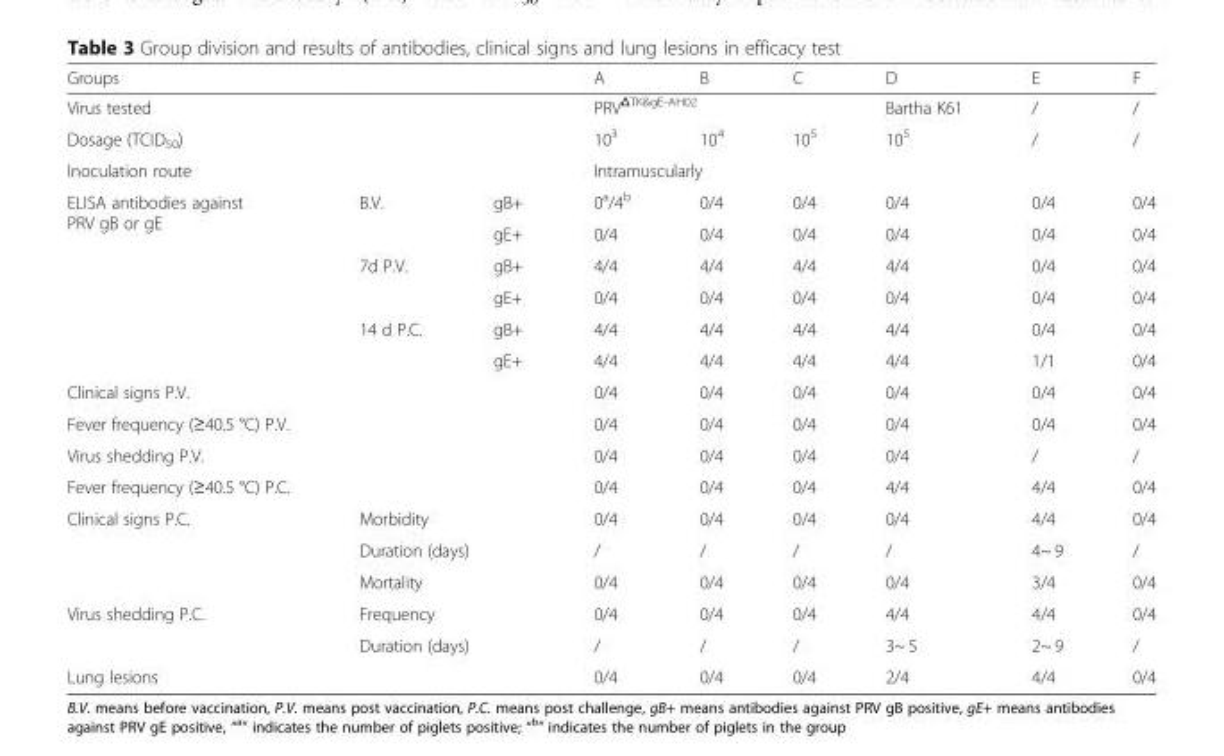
<table><thead><tr><td>Groups</td><td></td><td></td><td>A</td><td>B</td><td>C</td><td>D</td><td>E</td><td>F</td></tr></thead><tbody><tr><td>Virus tested</td><td></td><td></td><td colspan="3">PRV<sup>ΔTK&amp;gE-AH02</sup></td><td>Bartha K61</td><td>/</td><td>/</td></tr><tr><td>Dosage (TCID<sub>50</sub>)</td><td></td><td></td><td>10<sup>3</sup></td><td>10<sup>4</sup></td><td>10<sup>5</sup></td><td>10<sup>5</sup></td><td>/</td><td>/</td></tr><tr><td>Inoculation route</td><td></td><td></td><td colspan="6">Intramuscularly</td></tr><tr><td rowspan="6">ELISA antibodies against PRV gB or gE</td><td rowspan="2">B.V.</td><td>gB+</td><td>0<sup>a</sup>/4<sup>b</sup></td><td>0/4</td><td>0/4</td><td>0/4</td><td>0/4</td><td>0/4</td></tr><tr><td>gE+</td><td>0/4</td><td>0/4</td><td>0/4</td><td>0/4</td><td>0/4</td><td>0/4</td></tr><tr><td rowspan="2">7d P.V.</td><td>gB+</td><td>4/4</td><td>4/4</td><td>4/4</td><td>4/4</td><td>0/4</td><td>0/4</td></tr><tr><td>gE+</td><td>0/4</td><td>0/4</td><td>0/4</td><td>0/4</td><td>0/4</td><td>0/4</td></tr><tr><td rowspan="2">14 d P.C.</td><td>gB+</td><td>4/4</td><td>4/4</td><td>4/4</td><td>4/4</td><td>0/4</td><td>0/4</td></tr><tr><td>gE+</td><td>4/4</td><td>4/4</td><td>4/4</td><td>4/4</td><td>1/1</td><td>0/4</td></tr><tr><td>Clinical signs P.V.</td><td colspan="2"></td><td>0/4</td><td>0/4</td><td>0/4</td><td>0/4</td><td>0/4</td><td>0/4</td></tr><tr><td>Fever frequency (≥40.5 °C) P.V.</td><td colspan="2"></td><td>0/4</td><td>0/4</td><td>0/4</td><td>0/4</td><td>0/4</td><td>0/4</td></tr><tr><td>Virus shedding P.V.</td><td colspan="2"></td><td>0/4</td><td>0/4</td><td>0/4</td><td>0/4</td><td>/</td><td>/</td></tr><tr><td>Fever frequency (≥40.5 °C) P.C.</td><td colspan="2"></td><td>0/4</td><td>0/4</td><td>0/4</td><td>4/4</td><td>4/4</td><td>0/4</td></tr><tr><td rowspan="3">Clinical signs P.C.</td><td colspan="2">Morbidity</td><td>0/4</td><td>0/4</td><td>0/4</td><td>0/4</td><td>4/4</td><td>0/4</td></tr><tr><td colspan="2">Duration (days)</td><td>/</td><td>/</td><td>/</td><td>/</td><td>4~ 9</td><td>/</td></tr><tr><td colspan="2">Mortality</td><td>0/4</td><td>0/4</td><td>0/4</td><td>0/4</td><td>3/4</td><td>0/4</td></tr><tr><td rowspan="2">Virus shedding P.C.</td><td colspan="2">Frequency</td><td>0/4</td><td>0/4</td><td>0/4</td><td>4/4</td><td>4/4</td><td>0/4</td></tr><tr><td colspan="2">Duration (days)</td><td>/</td><td>/</td><td>/</td><td>3~ 5</td><td>2~ 9</td><td>/</td></tr><tr><td>Lung lesions</td><td colspan="2"></td><td>0/4</td><td>0/4</td><td>0/4</td><td>2/4</td><td>4/4</td><td>0/4</td></tr></tbody></table>